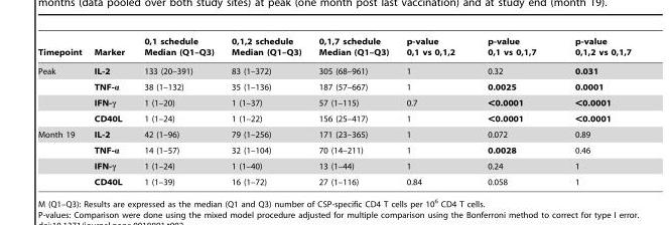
<table><thead><tr><td>Timepoint</td><td>Marker</td><td>0,1 schedule Median (Q1–Q3)</td><td>0,1,2 schedule Median (Q1–Q3)</td><td>0,1,7 schedule Median (Q1–Q3)</td><td>p-value 0,1 vs 0,1,2</td><td>p-value 0,1 vs 0,1,7</td><td>p-value 0,1,2 vs 0,1,7</td></tr></thead><tbody><tr><td rowspan="4">Peak</td><td>IL-2</td><td>133 (20–391)</td><td>83 (1–372)</td><td>305 (68–961)</td><td>1</td><td>0.32</td><td>0.031</td></tr><tr><td>TNF-α</td><td>38 (1–132)</td><td>35 (1–136)</td><td>187 (57–667)</td><td>1</td><td>0.0025</td><td>0.0001</td></tr><tr><td>IFN-γ</td><td>1 (1–20)</td><td>1 (1–37)</td><td>57 (1–115)</td><td>0.7</td><td>&lt;0.0001</td><td>&lt;0.0001</td></tr><tr><td>CD40L</td><td>1 (1–24)</td><td>1 (1–22)</td><td>156 (25–417)</td><td>1</td><td>&lt;0.0001</td><td>&lt;0.0001</td></tr><tr><td rowspan="4">Month 19</td><td>IL-2</td><td>42 (1–96)</td><td>79 (1–256)</td><td>171 (23–365)</td><td>1</td><td>0.072</td><td>0.89</td></tr><tr><td>TNF-α</td><td>14 (1–57)</td><td>32 (1–104)</td><td>70 (14–211)</td><td>1</td><td>0.0028</td><td>0.46</td></tr><tr><td>IFN-γ</td><td>1 (1–24)</td><td>1 (1–40)</td><td>13 (1–44)</td><td>1</td><td>0.24</td><td>1</td></tr><tr><td>CD40L</td><td>1 (1–39)</td><td>16 (1–72)</td><td>27 (1–116)</td><td>0.84</td><td>0.058</td><td>1</td></tr></tbody></table>